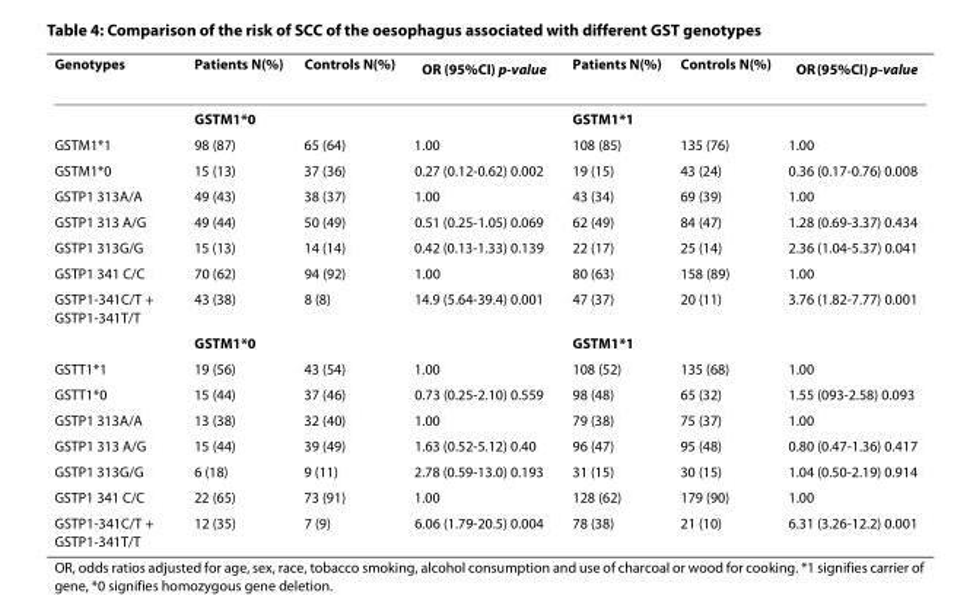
<table><thead><tr><td>Genotypes</td><td>Patients N(%)</td><td>Controls N(%)</td><td>OR (95%CI) p-value</td><td>Patients N(%)</td><td>Controls N(%)</td><td>OR (95%CI) p-value</td></tr></thead><tbody><tr><td></td><td colspan="3">GSTM1*0</td><td colspan="3">GSTM1*1</td></tr><tr><td>GSTM1*1</td><td>98 (87)</td><td>65 (64)</td><td>1.00</td><td>108 (85)</td><td>135 (76)</td><td>1.00</td></tr><tr><td>GSTM1*0</td><td>15 (13)</td><td>37 (36)</td><td>0.27 (0.12-0.62) 0.002</td><td>19 (15)</td><td>43 (24)</td><td>0.36 (0.17-0.76) 0.008</td></tr><tr><td>GSTP1 313A/A</td><td>49 (43)</td><td>38 (37)</td><td>1.00</td><td>43 (34)</td><td>69 (39)</td><td>1.00</td></tr><tr><td>GSTP1 313 A/G</td><td>49 (44)</td><td>50 (49)</td><td>0.51 (0.25-1.05) 0.069</td><td>62 (49)</td><td>84 (47)</td><td>1.28 (0.69-3.37) 0.434</td></tr><tr><td>GSTP1 313G/G</td><td>15 (13)</td><td>14 (14)</td><td>0.42 (0.13-1.33) 0.139</td><td>22 (17)</td><td>25 (14)</td><td>2.36 (1.04-5.37) 0.041</td></tr><tr><td>GSTP1 341 C/C</td><td>70 (62)</td><td>94 (92)</td><td>1.00</td><td>80 (63)</td><td>158 (89)</td><td>1.00</td></tr><tr><td rowspan="2">GSTP1-341C/T + GSTP1-341T/T</td><td>43 (38)</td><td>8 (8)</td><td>14.9 (5.64-39.4) 0.001</td><td>47 (37)</td><td>20 (11)</td><td>3.76 (1.82-7.77) 0.001</td></tr><tr><td colspan="3">GSTM1*0</td><td colspan="3">GSTM1*1</td></tr><tr><td>GSTT1*1</td><td>19 (56)</td><td>43 (54)</td><td>1.00</td><td>108 (52)</td><td>135 (68)</td><td>1.00</td></tr><tr><td>GSTT1*0</td><td>15 (44)</td><td>37 (46)</td><td>0.73 (0.25-2.10) 0.559</td><td>98 (48)</td><td>65 (32)</td><td>1.55 (093-2.58) 0.093</td></tr><tr><td>GSTP1 313A/A</td><td>13 (38)</td><td>32 (40)</td><td>1.00</td><td>79 (38)</td><td>75 (37)</td><td>1.00</td></tr><tr><td>GSTP1 313 A/G</td><td>15 (44)</td><td>39 (49)</td><td>1.63 (0.52-5.12) 0.40</td><td>96 (47)</td><td>95 (48)</td><td>0.80 (0.47-1.36) 0.417</td></tr><tr><td>GSTP1 313G/G</td><td>6 (18)</td><td>9 (11)</td><td>2.78 (0.59-13.0) 0.193</td><td>31 (15)</td><td>30 (15)</td><td>1.04 (0.50-2.19) 0.914</td></tr><tr><td>GSTP1 341 C/C</td><td>22 (65)</td><td>73 (91)</td><td>1.00</td><td>128 (62)</td><td>179 (90)</td><td>1.00</td></tr><tr><td>GSTP1-341C/T + GSTP1-341T/T</td><td>12 (35)</td><td>7 (9)</td><td>6.06 (1.79-20.5) 0.004</td><td>78 (38)</td><td>21 (10)</td><td>6.31 (3.26-12.2) 0.001</td></tr></tbody></table>